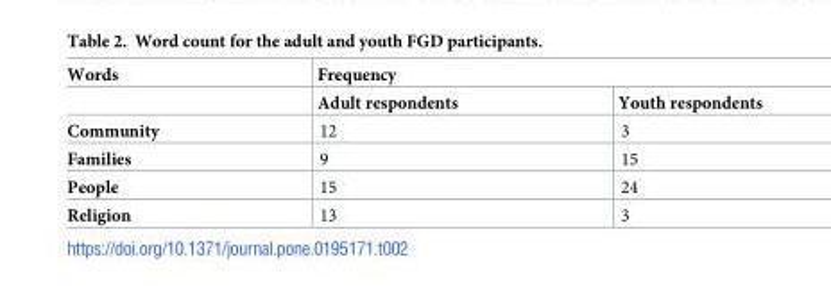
<table><thead><tr><td rowspan="2">Words</td><td colspan="2">Frequency</td></tr><tr><td>Adult respondents</td><td>Youth respondents</td></tr></thead><tbody><tr><td>Community</td><td>12</td><td>3</td></tr><tr><td>Families</td><td>9</td><td>15</td></tr><tr><td>People</td><td>15</td><td>24</td></tr><tr><td>Religion</td><td>13</td><td>3</td></tr></tbody></table>